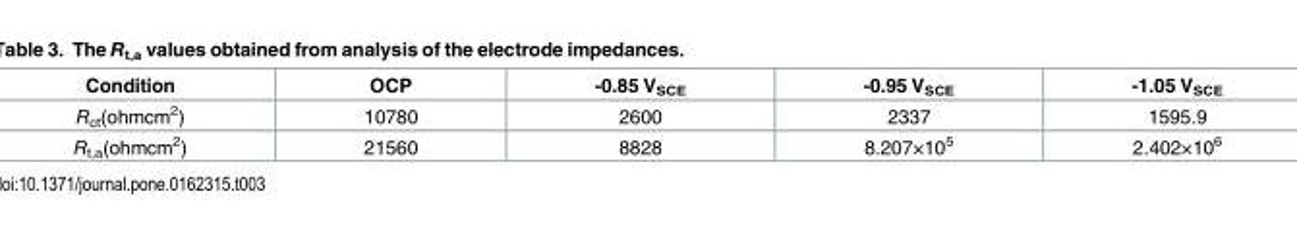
<table><thead><tr><td>Condition</td><td>OCP</td><td>-0.85 V<sub>SCE</sub></td><td>-0.95 V<sub>SCE</sub></td><td>-1.05 V<sub>SCE</sub></td></tr></thead><tbody><tr><td>R<sub>ct</sub>(ohmcm<sup>2</sup>)</td><td>10780</td><td>2600</td><td>2337</td><td>1595.9</td></tr><tr><td>R<sub>t,a</sub>(ohmcm<sup>2</sup>)</td><td>21560</td><td>8828</td><td>8.207×10<sup>5</sup></td><td>2.402×10<sup>6</sup></td></tr></tbody></table>